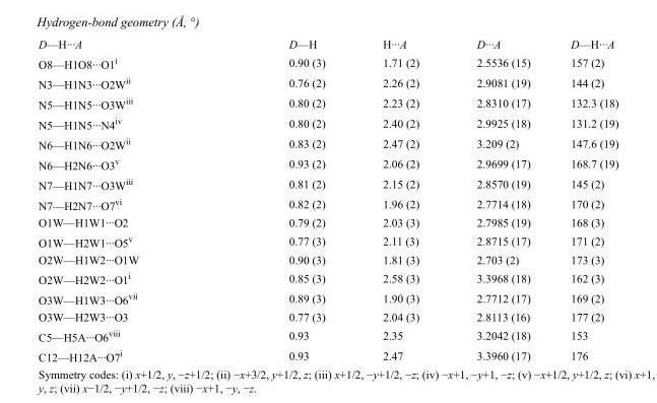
<table><tbody><tr><td>D—H···A</td><td>D—H</td><td>H···A</td><td>D···A</td><td>D—H···A</td></tr><tr><td>O8—H1O8···O1<sup>i</sup></td><td>0.90 (3)</td><td>1.71 (2)</td><td>2.5536 (15)</td><td>157 (2)</td></tr><tr><td>N3—H1N3···O2W<sup>ii</sup></td><td>0.76 (2)</td><td>2.26 (2)</td><td>2.9081 (19)</td><td>144 (2)</td></tr><tr><td>N5—H1N5···O3W<sup>iii</sup></td><td>0.80 (2)</td><td>2.23 (2)</td><td>2.8310 (17)</td><td>132.3 (18)</td></tr><tr><td>N5—H1N5···N4<sup>iv</sup></td><td>0.80 (2)</td><td>2.40 (2)</td><td>2.9925 (18)</td><td>131.2 (19)</td></tr><tr><td>N6—H1N6···O2W<sup>ii</sup></td><td>0.83 (2)</td><td>2.47 (2)</td><td>3.209 (2)</td><td>147.6 (19)</td></tr><tr><td>N6—H2N6···O3<sup>v</sup></td><td>0.93 (2)</td><td>2.06 (2)</td><td>2.9699 (17)</td><td>168.7 (19)</td></tr><tr><td>N7—H1N7···O3W<sup>iii</sup></td><td>0.81 (2)</td><td>2.15 (2)</td><td>2.8570 (19)</td><td>145 (2)</td></tr><tr><td>N7—H2N7···O7<sup>vi</sup></td><td>0.82 (2)</td><td>1.96 (2)</td><td>2.7714 (18)</td><td>170 (2)</td></tr><tr><td>O1W—H1W1···O2</td><td>0.79 (2)</td><td>2.03 (3)</td><td>2.7985 (19)</td><td>168 (3)</td></tr><tr><td>O1W—H2W1···O5<sup>v</sup></td><td>0.77 (3)</td><td>2.11 (3)</td><td>2.8715 (17)</td><td>171 (2)</td></tr><tr><td>O2W—H1W2···O1W</td><td>0.90 (3)</td><td>1.81 (3)</td><td>2.703 (2)</td><td>173 (3)</td></tr><tr><td>O2W—H2W2···O1<sup>i</sup></td><td>0.85 (3)</td><td>2.58 (3)</td><td>3.3968 (18)</td><td>162 (3)</td></tr><tr><td>O3W—H1W3···O6<sup>vii</sup></td><td>0.89 (3)</td><td>1.90 (3)</td><td>2.7712 (17)</td><td>169 (2)</td></tr><tr><td>O3W—H2W3···O3</td><td>0.77 (3)</td><td>2.04 (3)</td><td>2.8113 (16)</td><td>177 (2)</td></tr><tr><td>C5—H5A···O6<sup>viii</sup></td><td>0.93</td><td>2.35</td><td>3.2042 (18)</td><td>153</td></tr><tr><td>C12—H12A···O7<sup>i</sup></td><td>0.93</td><td>2.47</td><td>3.3960 (17)</td><td>176</td></tr></tbody></table>